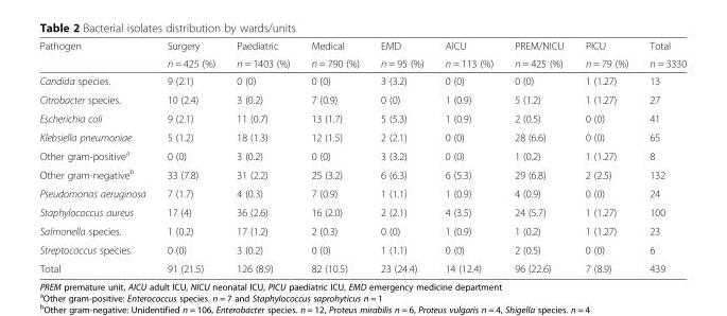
<table><thead><tr><td rowspan="2">Pathogen</td><td rowspan="2">Surgery n = 425 (%)</td><td rowspan="2">Paediatric n = 1403 (%)</td><td rowspan="2">Medical n = 790 (%)</td><td rowspan="2">EMD n = 95 (%)</td><td rowspan="2">AICU n = 113 (%)</td><td rowspan="2">PREM/NICU n = 425 (%)</td><td rowspan="2">PICU n = 79 (%)</td><td rowspan="2">Total n = 3330</td></tr><tr></tr></thead><tbody><tr><td>Candida species.</td><td>9 (2.1)</td><td>0 (0)</td><td>0 (0)</td><td>3 (3.2)</td><td>0 (0)</td><td>0 (0)</td><td>1 (1.27)</td><td>13</td></tr><tr><td>Citrobacter species.</td><td>10 (2.4)</td><td>3 (0.2)</td><td>7 (0.9)</td><td>0 (0)</td><td>1 (0.9)</td><td>5 (1.2)</td><td>1 (1.27)</td><td>27</td></tr><tr><td>Escherichia coli</td><td>9 (2.1)</td><td>11 (0.7)</td><td>13 (1.7)</td><td>5 (5.3)</td><td>1 (0.9)</td><td>2 (0.5)</td><td>0 (0)</td><td>41</td></tr><tr><td>Klebsiella pneumoniae</td><td>5 (1.2)</td><td>18 (1.3)</td><td>12 (1.5)</td><td>2 (2.1)</td><td>0 (0)</td><td>28 (6.6)</td><td>0 (0)</td><td>65</td></tr><tr><td>Other gram-positive<sup>a</sup></td><td>0 (0)</td><td>3 (0.2)</td><td>0 (0)</td><td>3 (3.2)</td><td>0 (0)</td><td>1 (0.2)</td><td>1 (1.27)</td><td>8</td></tr><tr><td>Other gram-negative<sup>b</sup></td><td>33 (7.8)</td><td>31 (2.2)</td><td>25 (3.2)</td><td>6 (6.3)</td><td>6 (5.3)</td><td>29 (6.8)</td><td>2 (2.5)</td><td>132</td></tr><tr><td>Pseudomonas aeruginosa</td><td>7 (1.7)</td><td>4 (0.3)</td><td>7 (0.9)</td><td>1 (1.1)</td><td>1 (0.9)</td><td>4 (0.9)</td><td>0 (0)</td><td>24</td></tr><tr><td>Staphylococcus aureus</td><td>17 (4)</td><td>36 (2.6)</td><td>16 (2.0)</td><td>2 (2.1)</td><td>4 (3.5)</td><td>24 (5.7)</td><td>1 (1.27)</td><td>100</td></tr><tr><td>Salmonella species.</td><td>1 (0.2)</td><td>17 (1.2)</td><td>2 (0.3)</td><td>0 (0)</td><td>1 (0.9)</td><td>1 (0.2)</td><td>1 (1.27)</td><td>23</td></tr><tr><td>Streptococcus species.</td><td>0 (0)</td><td>3 (0.2)</td><td>0 (0)</td><td>1 (1.1)</td><td>0 (0)</td><td>2 (0.5)</td><td>0 (0)</td><td>6</td></tr><tr><td>Total</td><td>91 (21.5)</td><td>126 (8.9)</td><td>82 (10.5)</td><td>23 (24.4)</td><td>14 (12.4)</td><td>96 (22.6)</td><td>7 (8.9)</td><td>439</td></tr></tbody></table>